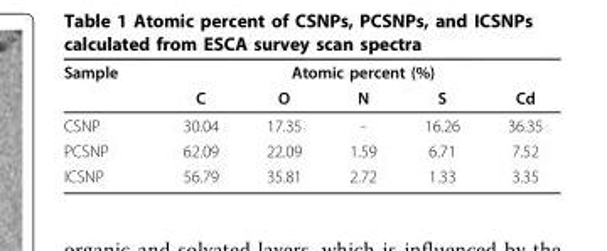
<table><thead><tr><td rowspan="2">Sample</td><td colspan="5">Atomic percent (%)</td></tr><tr><td>C</td><td>O</td><td>N</td><td>S</td><td>Cd</td></tr></thead><tbody><tr><td>CSNP</td><td>30.04</td><td>17.35</td><td>-</td><td>16.26</td><td>36.35</td></tr><tr><td>PCSNP</td><td>62.09</td><td>22.09</td><td>1.59</td><td>6.71</td><td>7.52</td></tr><tr><td>ICSNP</td><td>56.79</td><td>35.81</td><td>2.72</td><td>1.33</td><td>3.35</td></tr></tbody></table>